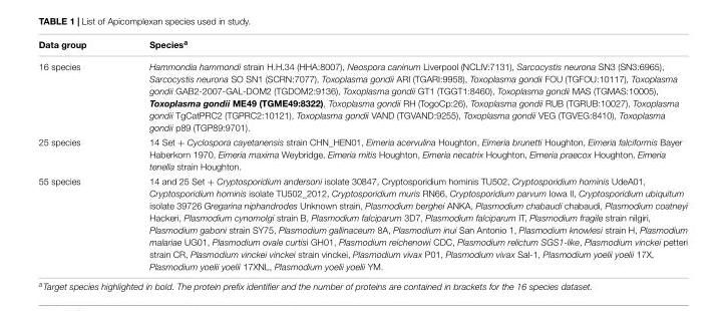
<table><thead><tr><td>Data group</td><td>Species<sup>a</sup></td></tr></thead><tbody><tr><td>16 species</td><td>Hammondia hammondi strain H.H.34 (HHA:8007), Neospora caninum Liverpool (NCLIV:7131), Sarcocystis neurona SN3 (SN3:6965), Sarcocystis neurona SO SN1 (SCRN:7077), Toxoplasma gondii ARI (TGARI:9958), Toxoplasma gondii FOU (TGFOU:10117), Toxoplasma gondii GAB2-2007-GAL-DOM2 (TGDOM2:9136), Toxoplasma gondii GT1 (TGGT1:8460), Toxoplasma gondii MAS (TGMAS:10005), Toxoplasma gondii ME49 (TGME49:8322), Toxoplasma gondii RH (TogoCp:26), Toxoplasma gondii RUB (TGRUB:10027), Toxoplasma gondii TgCatPRC2 (TGPRC2:10121), Toxoplasma gondii VAND (TGVAND:9255), Toxoplasma gondii VEG (TGVEG:8410), Toxoplasma gondii p89 (TGP89:9701).</td></tr><tr><td>25 species</td><td>14 Set + Cyclospora cayetanensis strain CHN_HEN01, Eimeria acervulina Houghton, Eimeria brunetti Houghton, Eimeria falciformis Bayer Haberkorn 1970, Eimeria maxima Weybridge, Eimeria mitis Houghton, Eimeria necatrix Houghton, Eimeria praecox Houghton, Eimeria tenella strain Houghton.</td></tr><tr><td>55 species</td><td>14 and 25 Set + Cryptosporidium andersoni isolate 30847, Cryptosporidium hominis TU502, Cryptosporidium hominis UdeA01, Cryptosporidium hominis isolate TU502_2012, Cryptosporidium muris RN66, Cryptosporidium parvum Iowa II, Cryptosporidium ubiquitum isolate 39726 Gregarina niphandrodes Unknown strain, Plasmodium berghei ANKA, Plasmodium chabaudi chabaudi, Plasmodium coatneyi Hackeri, Plasmodium cynomolgi strain B, Plasmodium falciparum 3D7, Plasmodium falciparum IT, Plasmodium fragile strain nilgiri, Plasmodium gaboni strain SY75, Plasmodium gallinaceum 8A, Plasmodium inui San Antonio 1, Plasmodium knowlesi strain H, Plasmodium malariae UG01, Plasmodium ovale curtisi GH01, Plasmodium reichenowi CDC, Plasmodium relictum SGS1-like, Plasmodium vinckei petteri strain CR, Plasmodium vinckei vinckei strain vinckei, Plasmodium vivax P01, Plasmodium vivax Sal-1, Plasmodium yoelii yoelii 17X, Plasmodium yoelii yoelii 17XNL, Plasmodium yoelii yoelii YM.</td></tr></tbody></table>